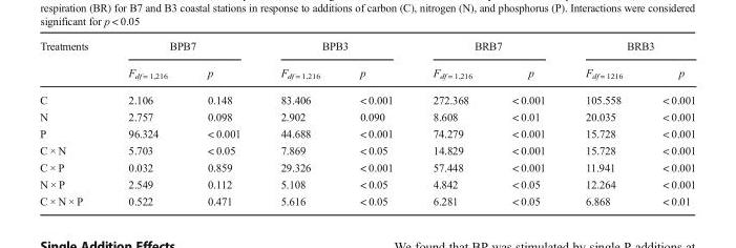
<table><thead><tr><td rowspan="2">Treatments</td><td colspan="2">BPB7</td><td colspan="2">BPB3</td><td colspan="2">BRB7</td><td colspan="2">BRB3</td></tr><tr><td>F<sub>df = 1,216</sub></td><td>p</td><td>F<sub>df = 1,216</sub></td><td>p</td><td>F<sub>df = 1,216</sub></td><td>p</td><td>F<sub>df = 1216</sub></td><td>p</td></tr></thead><tbody><tr><td>C</td><td>2.106</td><td>0.148</td><td>83.406</td><td>&lt; 0.001</td><td>272.368</td><td>&lt; 0.001</td><td>105.558</td><td>&lt; 0.001</td></tr><tr><td>N</td><td>2.757</td><td>0.098</td><td>2.902</td><td>0.090</td><td>8.608</td><td>&lt; 0.01</td><td>20.035</td><td>&lt; 0.001</td></tr><tr><td>P</td><td>96.324</td><td>&lt; 0.001</td><td>44.688</td><td>&lt; 0.001</td><td>74.279</td><td>&lt; 0.001</td><td>15.728</td><td>&lt; 0.001</td></tr><tr><td>C × N</td><td>5.703</td><td>&lt; 0.05</td><td>7.869</td><td>&lt; 0.05</td><td>14.829</td><td>&lt; 0.001</td><td>15.728</td><td>&lt; 0.001</td></tr><tr><td>C × P</td><td>0.032</td><td>0.859</td><td>29.326</td><td>&lt; 0.001</td><td>57.448</td><td>&lt; 0.001</td><td>11.941</td><td>&lt; 0.001</td></tr><tr><td>N × P</td><td>2.549</td><td>0.112</td><td>5.108</td><td>&lt; 0.05</td><td>4.842</td><td>&lt; 0.05</td><td>12.264</td><td>&lt; 0.001</td></tr><tr><td>C × N × P</td><td>0.522</td><td>0.471</td><td>5.616</td><td>&lt; 0.05</td><td>6.281</td><td>&lt; 0.05</td><td>6.868</td><td>&lt; 0.01</td></tr></tbody></table>